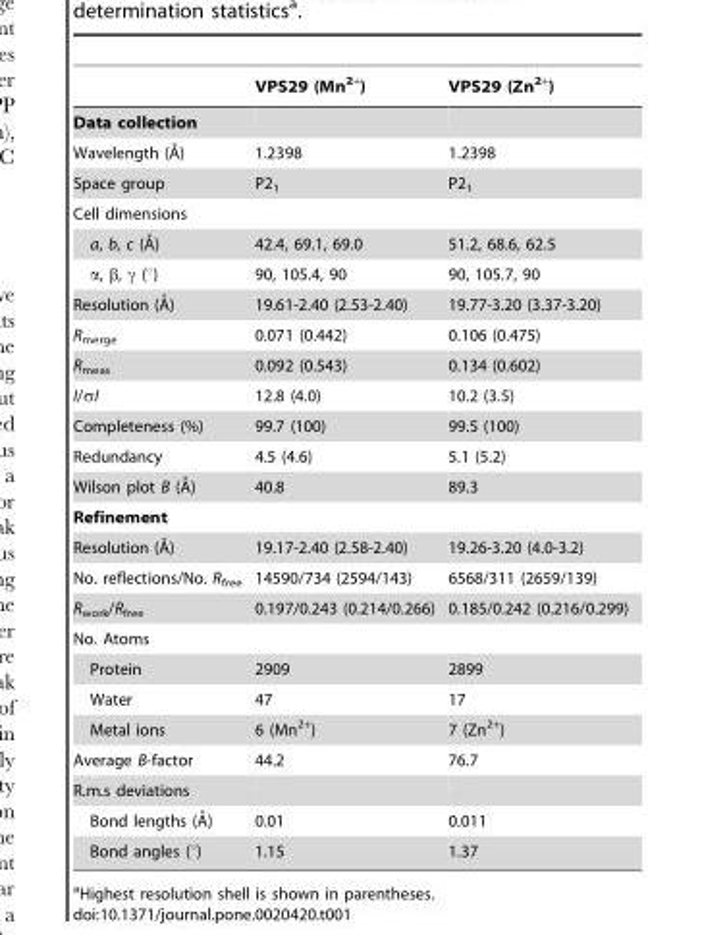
<table><thead><tr><td></td><td>VPS29 (Mn<sup>2+</sup>)</td><td>VPS29 (Zn<sup>2+</sup>)</td></tr></thead><tbody><tr><td colspan="3">Data collection</td></tr><tr><td>Wavelength (A˚)</td><td>1.2398</td><td>1.2398</td></tr><tr><td>Space group</td><td>P2<sub>1</sub></td><td>P2<sub>1</sub></td></tr><tr><td colspan="3">Cell dimensions</td></tr><tr><td>a, b, c (A˚)</td><td>42.4, 69.1, 69.0</td><td>51.2, 68.6, 62.5</td></tr><tr><td>α, β, γ (°)</td><td>90, 105.4, 90</td><td>90, 105.7, 90</td></tr><tr><td>Resolution (A˚)</td><td>19.61-2.40 (2.53-2.40)</td><td>19.77-3.20 (3.37-3.20)</td></tr><tr><td>R<sub>merge</sub></td><td>0.071 (0.442)</td><td>0.106 (0.475)</td></tr><tr><td>R<sub>meas</sub></td><td>0.092 (0.543)</td><td>0.134 (0.602)</td></tr><tr><td>I/σI</td><td>12.8 (4.0)</td><td>10.2 (3.5)</td></tr><tr><td>Completeness (%)</td><td>99.7 (100)</td><td>99.5 (100)</td></tr><tr><td>Redundancy</td><td>4.5 (4.6)</td><td>5.1 (5.2)</td></tr><tr><td>Wilson plot B (A˚)</td><td>40.8</td><td>89.3</td></tr><tr><td colspan="3">Refinement</td></tr><tr><td>Resolution (A˚)</td><td>19.17-2.40 (2.58-2.40)</td><td>19.26-3.20 (4.0-3.2)</td></tr><tr><td>No. reflections/No. R<sub>free</sub></td><td>14590/734 (2594/143)</td><td>6568/311 (2659/139)</td></tr><tr><td>R<sub>work</sub>/R<sub>free</sub></td><td>0.197/0.243 (0.214/0.266)</td><td>0.185/0.242 (0.216/0.299)</td></tr><tr><td colspan="3">No. Atoms</td></tr><tr><td>Protein</td><td>2909</td><td>2899</td></tr><tr><td>Water</td><td>47</td><td>17</td></tr><tr><td>Metal ions</td><td>6 (Mn<sup>2+</sup>)</td><td>7 (Zn<sup>2+</sup>)</td></tr><tr><td>Average B-factor</td><td>44.2</td><td>76.7</td></tr><tr><td colspan="3">R.m.s deviations</td></tr><tr><td>Bond lengths (A˚)</td><td>0.01</td><td>0.011</td></tr><tr><td>Bond angles (°)</td><td>1.15</td><td>1.37</td></tr></tbody></table>